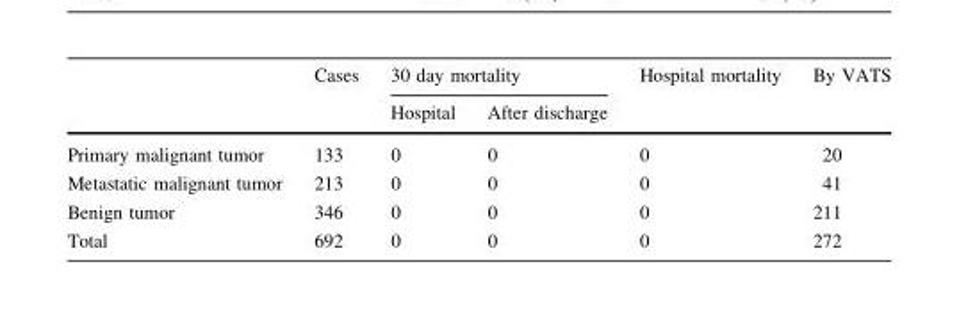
<table><thead><tr><td rowspan="2"></td><td rowspan="2">Cases</td><td colspan="2">30 day mortality</td><td rowspan="2">Hospital mortality</td><td rowspan="2">By VATS</td></tr><tr><td>Hospital</td><td>After discharge</td></tr></thead><tbody><tr><td>Primary malignant tumor</td><td>133</td><td>0</td><td>0</td><td>0</td><td>20</td></tr><tr><td>Metastatic malignant tumor</td><td>213</td><td>0</td><td>0</td><td>0</td><td>41</td></tr><tr><td>Benign tumor</td><td>346</td><td>0</td><td>0</td><td>0</td><td>211</td></tr><tr><td>Total</td><td>692</td><td>0</td><td>0</td><td>0</td><td>272</td></tr></tbody></table>